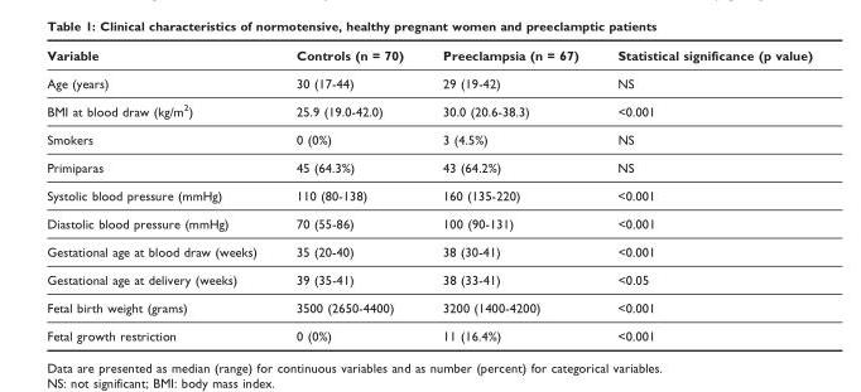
<table><thead><tr><td>Variable</td><td>Controls (n = 70)</td><td>Preeclampsia (n = 67)</td><td>Statistical significance (p value)</td></tr></thead><tbody><tr><td>Age (years)</td><td>30 (17-44)</td><td>29 (19-42)</td><td>NS</td></tr><tr><td>BMI at blood draw (kg/m<sup>2</sup>)</td><td>25.9 (19.0-42.0)</td><td>30.0 (20.6-38.3)</td><td>&lt;0.001</td></tr><tr><td>Smokers</td><td>0 (0%)</td><td>3 (4.5%)</td><td>NS</td></tr><tr><td>Primiparas</td><td>45 (64.3%)</td><td>43 (64.2%)</td><td>NS</td></tr><tr><td>Systolic blood pressure (mmHg)</td><td>110 (80-138)</td><td>160 (135-220)</td><td>&lt;0.001</td></tr><tr><td>Diastolic blood pressure (mmHg)</td><td>70 (55-86)</td><td>100 (90-131)</td><td>&lt;0.001</td></tr><tr><td>Gestational age at blood draw (weeks)</td><td>35 (20-40)</td><td>38 (30-41)</td><td>&lt;0.001</td></tr><tr><td>Gestational age at delivery (weeks)</td><td>39 (35-41)</td><td>38 (33-41)</td><td>&lt;0.05</td></tr><tr><td>Fetal birth weight (grams)</td><td>3500 (2650-4400)</td><td>3200 (1400-4200)</td><td>&lt;0.001</td></tr><tr><td>Fetal growth restriction</td><td>0 (0%)</td><td>11 (16.4%)</td><td>&lt;0.001</td></tr></tbody></table>